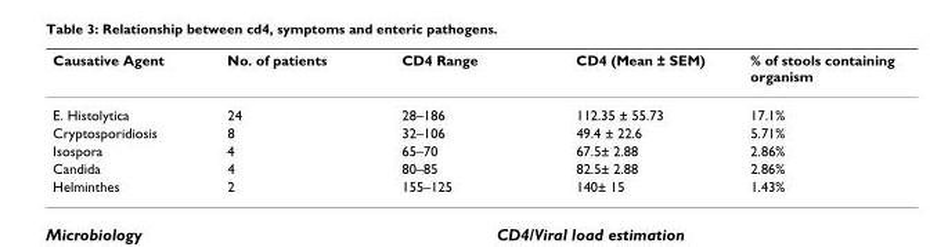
<table><thead><tr><td>Causative Agent</td><td>No. of patients</td><td>CD4 Range</td><td>CD4 (Mean ± SEM)</td><td>% of stools containing organism</td></tr></thead><tbody><tr><td>E. Histolytica</td><td>24</td><td>28–186</td><td>112.35 ± 55.73</td><td>17.1%</td></tr><tr><td>Cryptosporidiosis</td><td>8</td><td>32–106</td><td>49.4 ± 22.6</td><td>5.71%</td></tr><tr><td>Isospora</td><td>4</td><td>65–70</td><td>67.5± 2.88</td><td>2.86%</td></tr><tr><td>Candida</td><td>4</td><td>80–85</td><td>82.5± 2.88</td><td>2.86%</td></tr><tr><td>Helminthes</td><td>2</td><td>155–125</td><td>140± 15</td><td>1.43%</td></tr></tbody></table>